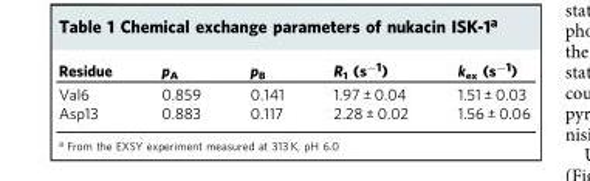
<table><thead><tr><td>Residue</td><td>p<sub>A</sub></td><td>p<sub>B</sub></td><td>R<sub>1</sub> (s<sup>−1</sup>)</td><td>k<sub>ex</sub> (s<sup>−1</sup>)</td></tr></thead><tbody><tr><td>Val6</td><td>0.859</td><td>0.141</td><td>1.97 ± 0.04</td><td>1.51 ± 0.03</td></tr><tr><td>Asp13</td><td>0.883</td><td>0.117</td><td>2.28 ± 0.02</td><td>1.56 ± 0.06</td></tr></tbody></table>